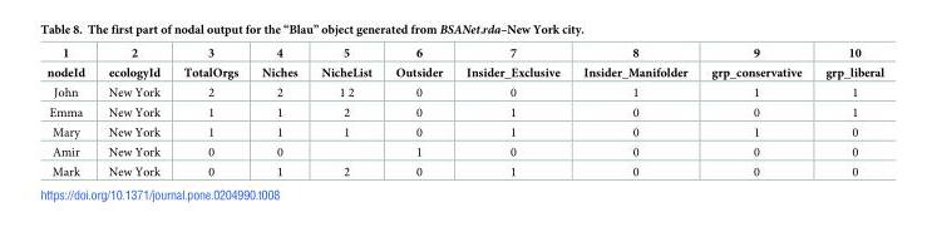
<table><thead><tr><td rowspan="2">1 nodeId</td><td rowspan="2">2 ecologyId</td><td rowspan="2">3 TotalOrgs</td><td rowspan="2">4 Niches</td><td rowspan="2">5 NicheList</td><td rowspan="2">6 Outsider</td><td rowspan="2">7 Insider_Exclusive</td><td rowspan="2">8 Insider_Manifolder</td><td rowspan="2">9 grp_conservative</td><td rowspan="2">10 grp_liberal</td></tr><tr></tr></thead><tbody><tr><td>John</td><td>New York</td><td>2</td><td>2</td><td>1 2</td><td>0</td><td>0</td><td>1</td><td>1</td><td>1</td></tr><tr><td>Emma</td><td>New York</td><td>1</td><td>1</td><td>2</td><td>0</td><td>1</td><td>0</td><td>0</td><td>1</td></tr><tr><td>Mary</td><td>New York</td><td>1</td><td>1</td><td>1</td><td>0</td><td>1</td><td>0</td><td>1</td><td>0</td></tr><tr><td>Amir</td><td>New York</td><td>0</td><td>0</td><td></td><td>1</td><td>0</td><td>0</td><td>0</td><td>0</td></tr><tr><td>Mark</td><td>New York</td><td>0</td><td>1</td><td>2</td><td>0</td><td>1</td><td>0</td><td>0</td><td>0</td></tr></tbody></table>